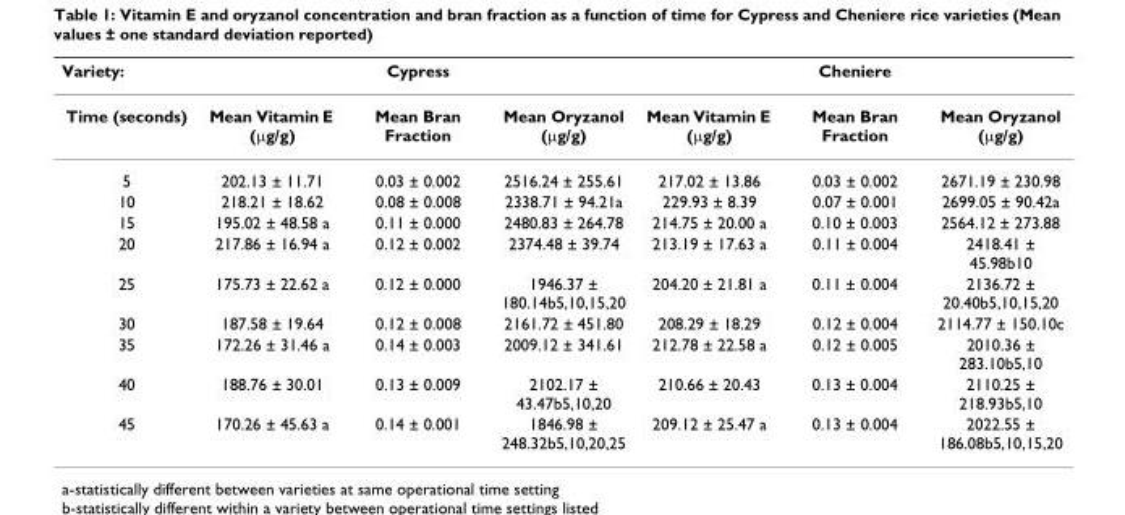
<table><thead><tr><td rowspan="2">Variety: Time (seconds)</td><td colspan="3">Cypress</td><td colspan="3">Cheniere</td></tr><tr><td>Mean Vitamin E (μg/g)</td><td>Mean Bran Fraction</td><td>Mean Oryzanol (μg/g)</td><td>Mean Vitamin E (μg/g)</td><td>Mean Bran Fraction</td><td>Mean Oryzanol (μg/g)</td></tr></thead><tbody><tr><td>5</td><td>202.13 ± 11.71</td><td>0.03 ± 0.002</td><td>2516.24 ± 255.61</td><td>217.02 ± 13.86</td><td>0.03 ± 0.002</td><td>2671.19 ± 230.98</td></tr><tr><td>10</td><td>218.21 ± 18.62</td><td>0.08 ± 0.008</td><td>2338.71 ± 94.21a</td><td>229.93 ± 8.39</td><td>0.07 ± 0.001</td><td>2699.05 ± 90.42a</td></tr><tr><td>15</td><td>195.02 ± 48.58 a</td><td>0.11 ± 0.000</td><td>2480.83 ± 264.78</td><td>214.75 ± 20.00 a</td><td>0.10 ± 0.003</td><td>2564.12 ± 273.88</td></tr><tr><td>20</td><td>217.86 ± 16.94 a</td><td>0.12 ± 0.002</td><td>2374.48 ± 39.74</td><td>213.19 ± 17.63 a</td><td>0.11 ± 0.004</td><td>2418.41 ± 45.98b10</td></tr><tr><td>25</td><td>175.73 ± 22.62 a</td><td>0.12 ± 0.000</td><td>1946.37 ± 180.14b5,10,15,20</td><td>204.20 ± 21.81 a</td><td>0.11 ± 0.004</td><td>2136.72 ± 20.40b5,10,15,20</td></tr><tr><td>30</td><td>187.58 ± 19.64</td><td>0.12 ± 0.008</td><td>2161.72 ± 451.80</td><td>208.29 ± 18.29</td><td>0.12 ± 0.004</td><td>2114.77 ± 150.10c</td></tr><tr><td>35</td><td>172.26 ± 31.46 a</td><td>0.14 ± 0.003</td><td>2009.12 ± 341.61</td><td>212.78 ± 22.58 a</td><td>0.12 ± 0.005</td><td>2010.36 ± 283.10b5,10</td></tr><tr><td>40</td><td>188.76 ± 30.01</td><td>0.13 ± 0.009</td><td>2102.17 ± 43.47b5,10,20</td><td>210.66 ± 20.43</td><td>0.13 ± 0.004</td><td>2110.25 ± 218.93b5,10</td></tr><tr><td>45</td><td>170.26 ± 45.63 a</td><td>0.14 ± 0.001</td><td>1846.98 ± 248.32b5,10,20,25</td><td>209.12 ± 25.47 a</td><td>0.13 ± 0.004</td><td>2022.55 ± 186.08b5,10,15,20</td></tr></tbody></table>